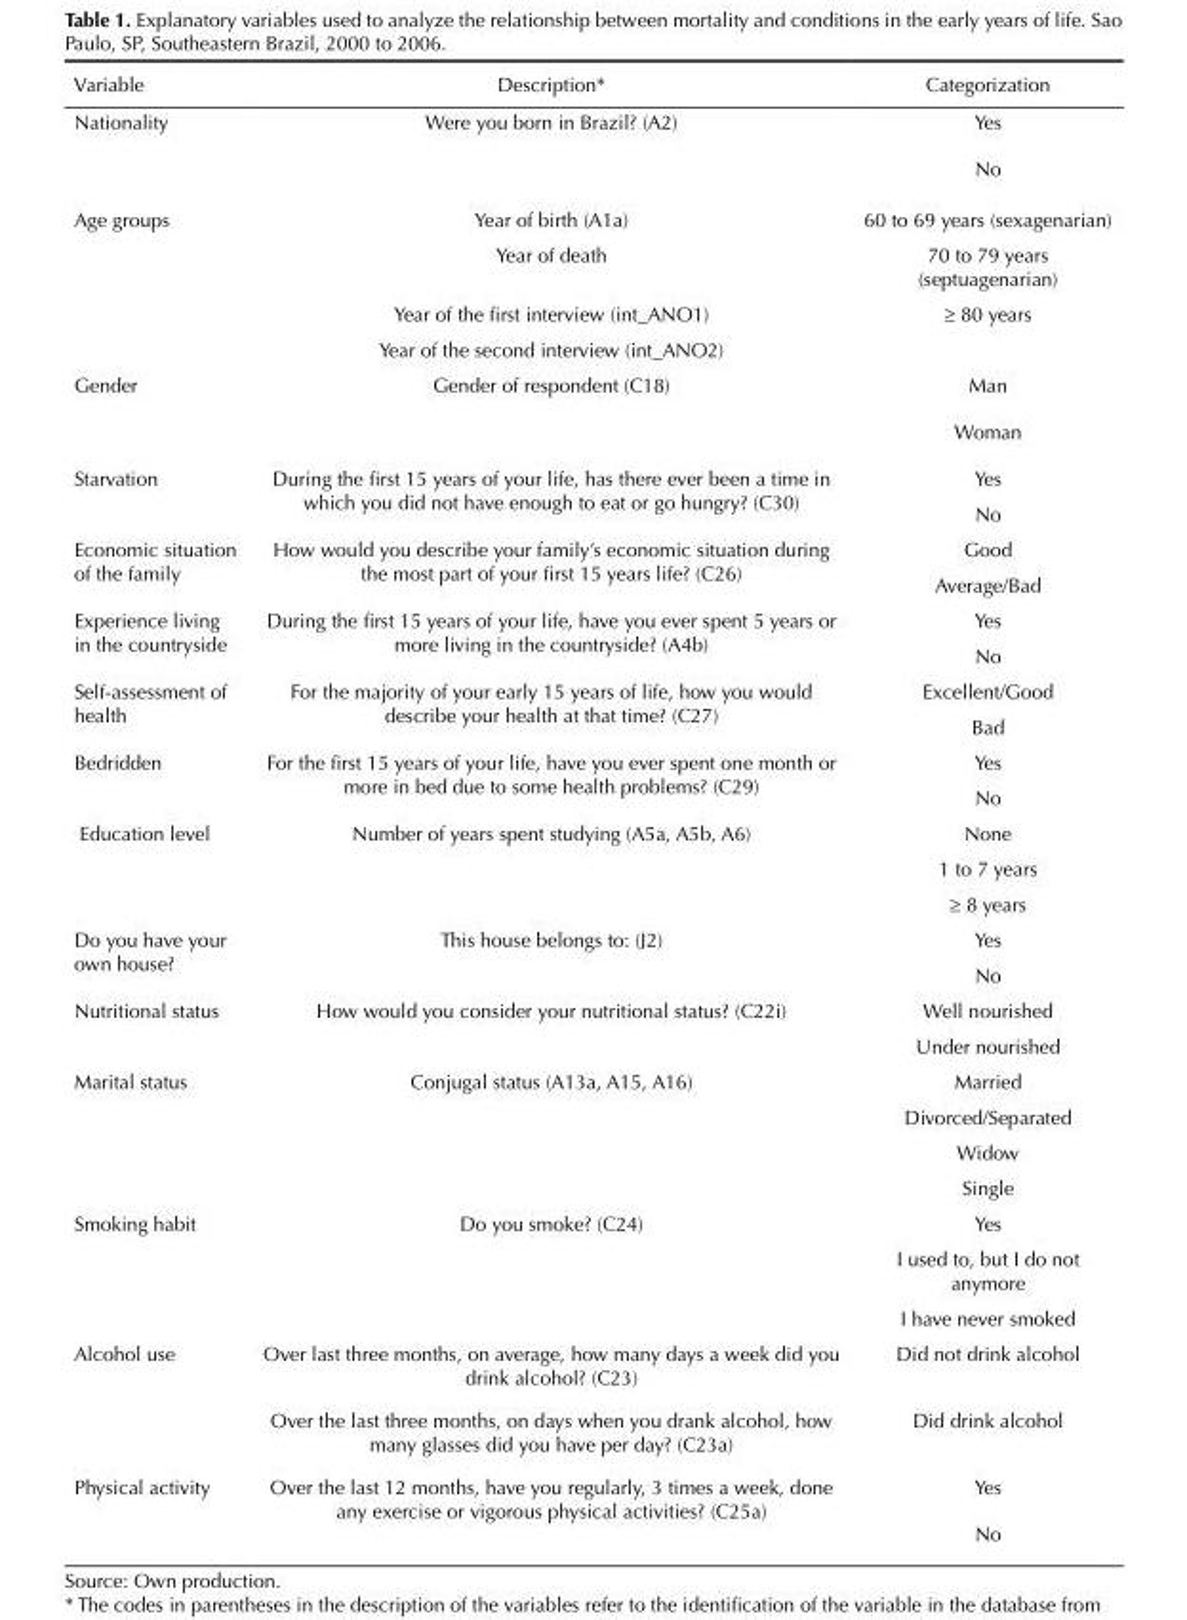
<table><thead><tr><td>Variable</td><td>Description*</td><td>Categorization</td></tr></thead><tbody><tr><td rowspan="2">Nationality</td><td rowspan="2">Were you born in Brazil? (A2)</td><td>Yes</td></tr><tr><td>No</td></tr><tr><td rowspan="4">Age groups</td><td>Year of birth (A1a)</td><td>60 to 69 years (sexagenarian)</td></tr><tr><td>Year of death</td><td>70 to 79 years (septuagenarian)</td></tr><tr><td>Year of the first interview (int_ANO1)</td><td rowspan="2">≥ 80 years</td></tr><tr><td>Year of the second interview (int_ANO2)</td></tr><tr><td rowspan="2">Gender</td><td rowspan="2">Gender of respondent (C18)</td><td>Man</td></tr><tr><td>Woman</td></tr><tr><td rowspan="2">Starvation</td><td rowspan="2">During the first 15 years of your life, has there ever been a time in which you did not have enough to eat or go hungry? (C30)</td><td>Yes</td></tr><tr><td>No</td></tr><tr><td rowspan="2">Economic situation of the family</td><td rowspan="2">How would you describe your family’s economic situation during the most part of your first 15 years life? (C26)</td><td>Good</td></tr><tr><td>Average/Bad</td></tr><tr><td rowspan="2">Experience living in the countryside</td><td rowspan="2">During the first 15 years of your life, have you ever spent 5 years or more living in the countryside? (A4b)</td><td>Yes</td></tr><tr><td>No</td></tr><tr><td rowspan="2">Self-assessment of health</td><td rowspan="2">For the majority of your early 15 years of life, how you would describe your health at that time? (C27)</td><td>Excellent/Good</td></tr><tr><td>Bad</td></tr><tr><td rowspan="2">Bedridden</td><td rowspan="2">For the first 15 years of your life, have you ever spent one month or more in bed due to some health problems? (C29)</td><td>Yes</td></tr><tr><td>No</td></tr><tr><td rowspan="3">Education level</td><td rowspan="3">Number of years spent studying (A5a, A5b, A6)</td><td>None</td></tr><tr><td>1 to 7 years</td></tr><tr><td>≥ 8 years</td></tr><tr><td rowspan="2">Do you have your own house?</td><td rowspan="2">This house belongs to: (J2)</td><td>Yes</td></tr><tr><td>No</td></tr><tr><td rowspan="2">Nutritional status</td><td rowspan="2">How would you consider your nutritional status? (C22i)</td><td>Well nourished</td></tr><tr><td>Under nourished</td></tr><tr><td rowspan="4">Marital status</td><td rowspan="4">Conjugal status (A13a, A15, A16)</td><td>Married</td></tr><tr><td>Divorced/Separated</td></tr><tr><td>Widow</td></tr><tr><td>Single</td></tr><tr><td rowspan="3">Smoking habit</td><td rowspan="3">Do you smoke? (C24)</td><td>Yes</td></tr><tr><td>I used to, but I do not anymore</td></tr><tr><td>I have never smoked</td></tr><tr><td rowspan="2">Alcohol use</td><td>Over last three months, on average, how many days a week did you drink alcohol? (C23)</td><td>Did not drink alcohol</td></tr><tr><td>Over the last three months, on days when you drank alcohol, how many glasses did you have per day? (C23a)</td><td>Did drink alcohol</td></tr><tr><td rowspan="2">Physical activity</td><td rowspan="2">Over the last 12 months, have you regularly, 3 times a week, done any exercise or vigorous physical activities? (C25a)</td><td>Yes</td></tr><tr><td>No</td></tr></tbody></table>